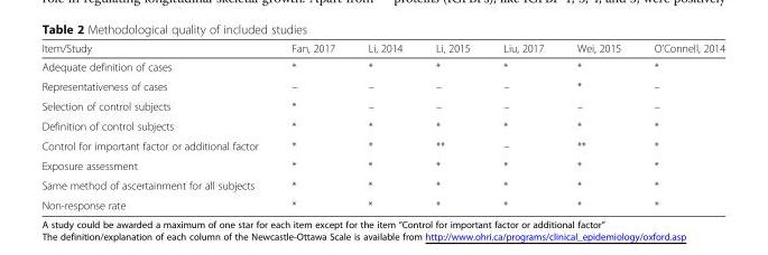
<table><thead><tr><td>Item/Study</td><td>Fan, 2017</td><td>Li, 2014</td><td>Li, 2015</td><td>Liu, 2017</td><td>Wei, 2015</td><td>O’Connell, 2014</td></tr></thead><tbody><tr><td>Adequate definition of cases</td><td>*</td><td>*</td><td>*</td><td>*</td><td>*</td><td>*</td></tr><tr><td>Representativeness of cases</td><td>–</td><td>–</td><td>–</td><td>–</td><td>*</td><td>–</td></tr><tr><td>Selection of control subjects</td><td>*</td><td>–</td><td>–</td><td>–</td><td>–</td><td>–</td></tr><tr><td>Definition of control subjects</td><td>*</td><td>*</td><td>*</td><td>*</td><td>*</td><td>*</td></tr><tr><td>Control for important factor or additional factor</td><td>*</td><td>*</td><td>**</td><td>–</td><td>**</td><td>*</td></tr><tr><td>Exposure assessment</td><td>*</td><td>*</td><td>*</td><td>*</td><td>*</td><td>*</td></tr><tr><td>Same method of ascertainment for all subjects</td><td>*</td><td>*</td><td>*</td><td>*</td><td>*</td><td>*</td></tr><tr><td>Non-response rate</td><td>*</td><td>*</td><td>*</td><td>*</td><td>*</td><td>*</td></tr></tbody></table>